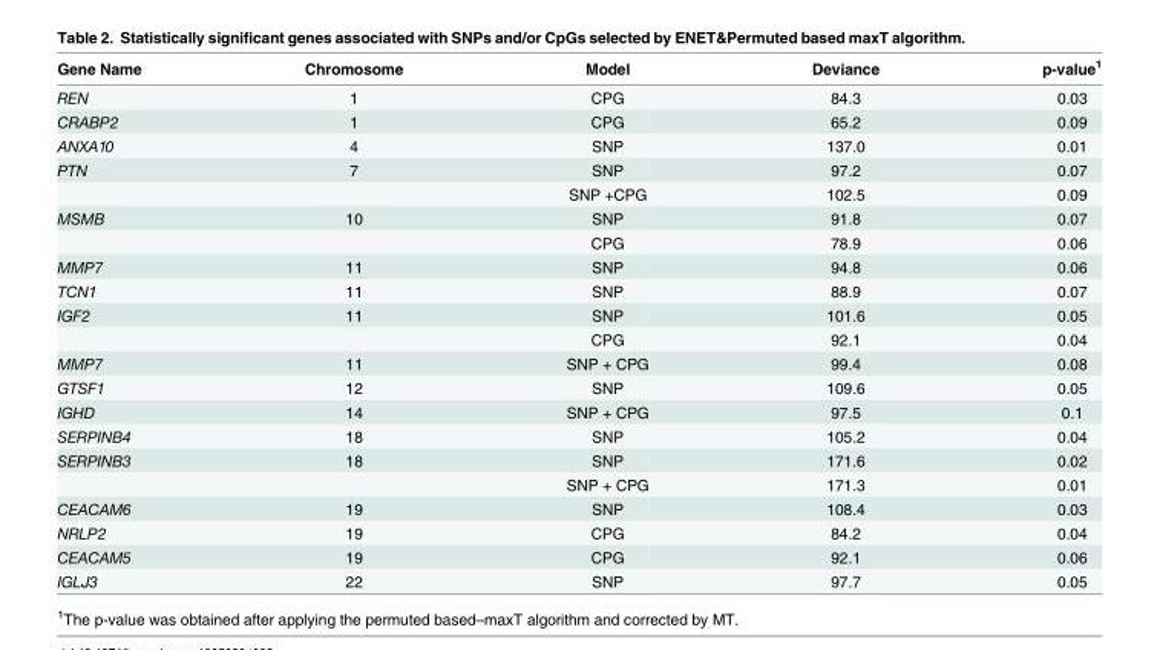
<table><thead><tr><td>Gene Name</td><td>Chromosome</td><td>Model</td><td>Deviance</td><td>p-value<sup>1</sup></td></tr></thead><tbody><tr><td>REN</td><td>1</td><td>CPG</td><td>84.3</td><td>0.03</td></tr><tr><td>CRABP2</td><td>1</td><td>CPG</td><td>65.2</td><td>0.09</td></tr><tr><td>ANXA10</td><td>4</td><td>SNP</td><td>137.0</td><td>0.01</td></tr><tr><td rowspan="2">PTN</td><td>7</td><td>SNP</td><td>97.2</td><td>0.07</td></tr><tr><td></td><td>SNP +CPG</td><td>102.5</td><td>0.09</td></tr><tr><td rowspan="2">MSMB</td><td>10</td><td>SNP</td><td>91.8</td><td>0.07</td></tr><tr><td></td><td>CPG</td><td>78.9</td><td>0.06</td></tr><tr><td>MMP7</td><td>11</td><td>SNP</td><td>94.8</td><td>0.06</td></tr><tr><td>TCN1</td><td>11</td><td>SNP</td><td>88.9</td><td>0.07</td></tr><tr><td rowspan="2">IGF2</td><td>11</td><td>SNP</td><td>101.6</td><td>0.05</td></tr><tr><td></td><td>CPG</td><td>92.1</td><td>0.04</td></tr><tr><td>MMP7</td><td>11</td><td>SNP + CPG</td><td>99.4</td><td>0.08</td></tr><tr><td>GTSF1</td><td>12</td><td>SNP</td><td>109.6</td><td>0.05</td></tr><tr><td>IGHD</td><td>14</td><td>SNP + CPG</td><td>97.5</td><td>0.1</td></tr><tr><td>SERPINB4</td><td>18</td><td>SNP</td><td>105.2</td><td>0.04</td></tr><tr><td rowspan="2">SERPINB3</td><td>18</td><td>SNP</td><td>171.6</td><td>0.02</td></tr><tr><td></td><td>SNP + CPG</td><td>171.3</td><td>0.01</td></tr><tr><td>CEACAM6</td><td>19</td><td>SNP</td><td>108.4</td><td>0.03</td></tr><tr><td>NRLP2</td><td>19</td><td>CPG</td><td>84.2</td><td>0.04</td></tr><tr><td>CEACAM5</td><td>19</td><td>CPG</td><td>92.1</td><td>0.06</td></tr><tr><td>IGLJ3</td><td>22</td><td>SNP</td><td>97.7</td><td>0.05</td></tr></tbody></table>